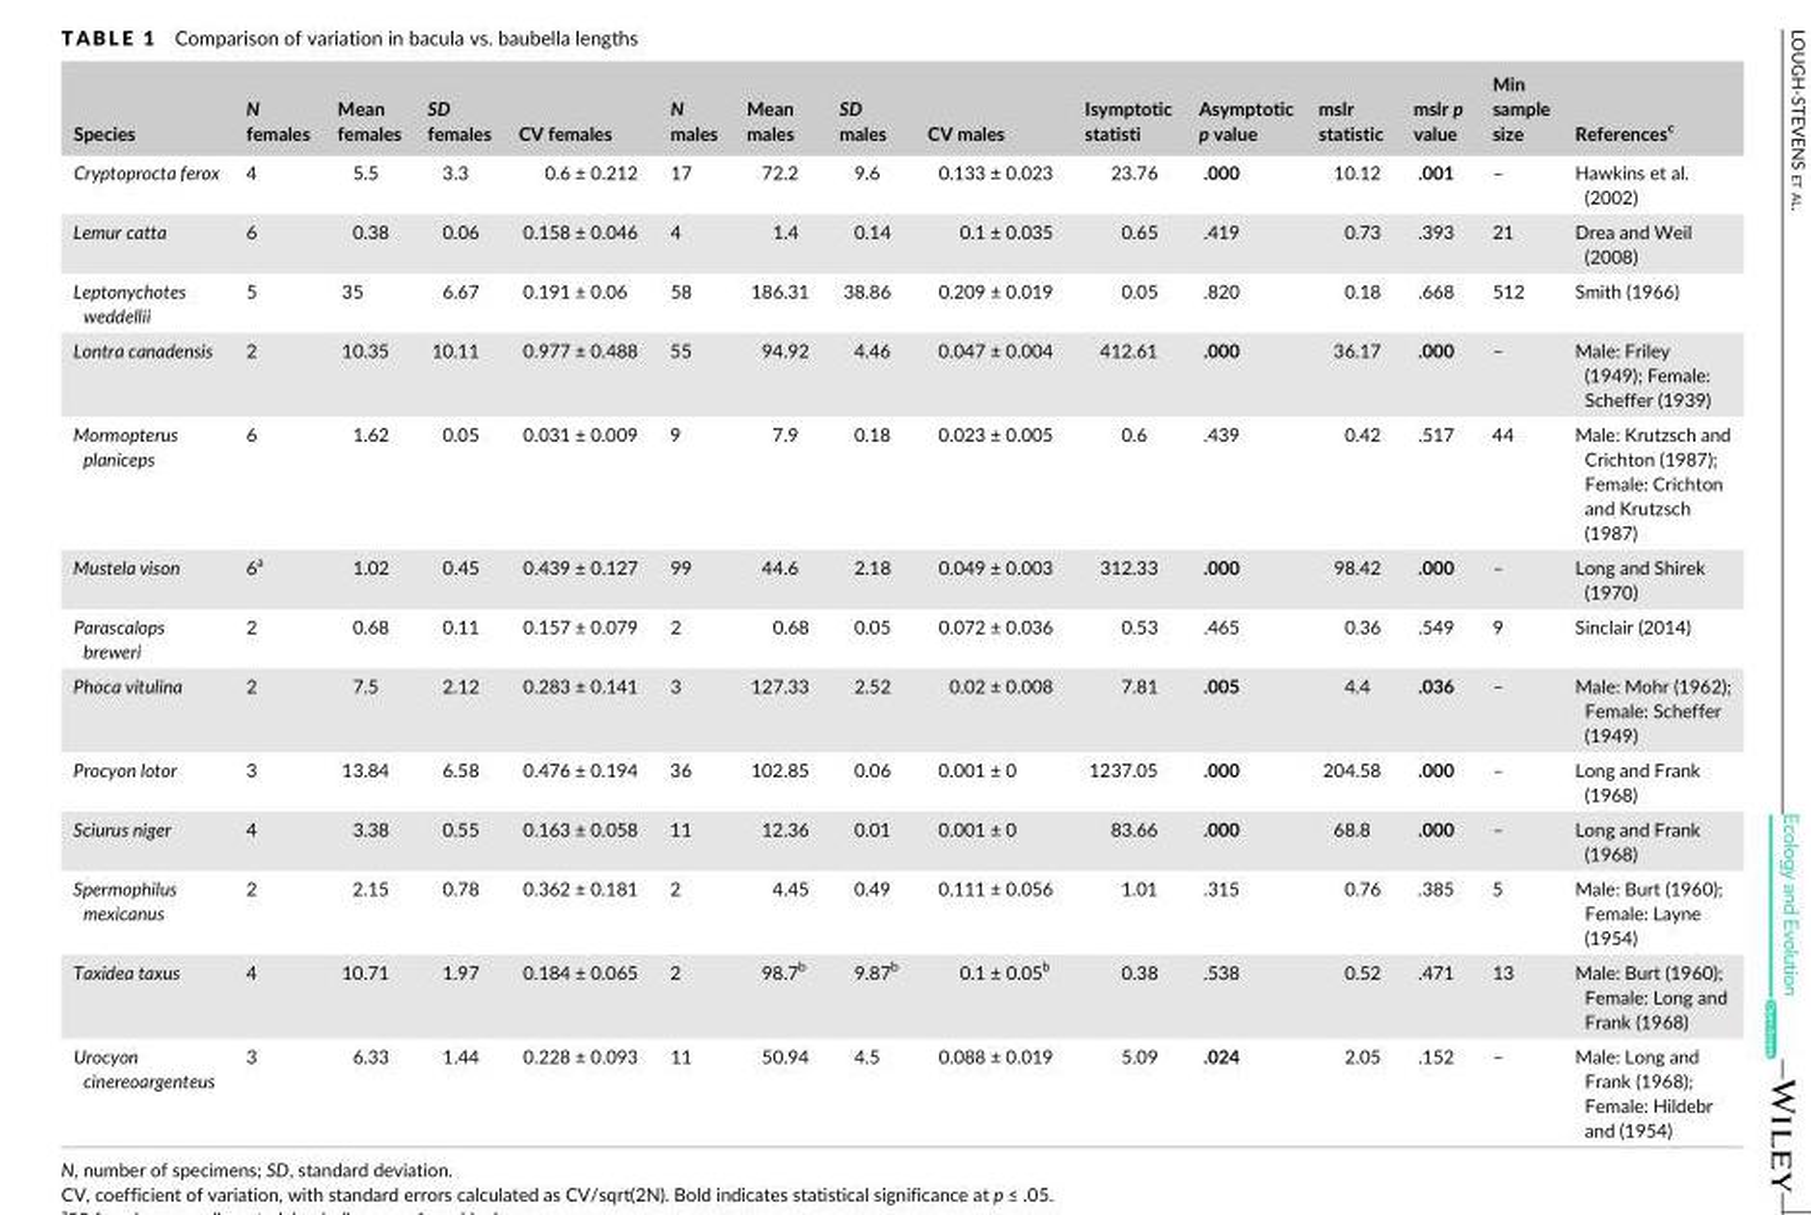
<table><thead><tr><td>Species</td><td>N females</td><td>Mean females</td><td>SD females</td><td>CV females</td><td>N males</td><td>Mean males</td><td>SD males</td><td>CV males</td><td>Isymptotic statisti</td><td>Asymptotic p value</td><td>mslr statistic</td><td>mslr p value</td><td>Min sample size</td><td>References<sup>c</sup></td></tr></thead><tbody><tr><td>Cryptoprocta ferox</td><td>4</td><td>5.5</td><td>3.3</td><td>0.6 ± 0.212</td><td>17</td><td>72.2</td><td>9.6</td><td>0.133 ± 0.023</td><td>23.76</td><td>.000</td><td>10.12</td><td>.001</td><td>–</td><td>Hawkins et al. (2002)</td></tr><tr><td>Lemur catta</td><td>6</td><td>0.38</td><td>0.06</td><td>0.158 ± 0.046</td><td>4</td><td>1.4</td><td>0.14</td><td>0.1 ± 0.035</td><td>0.65</td><td>.419</td><td>0.73</td><td>.393</td><td>21</td><td>Drea and Weil (2008)</td></tr><tr><td>Leptonychotes weddellii</td><td>5</td><td>35</td><td>6.67</td><td>0.191 ± 0.06</td><td>58</td><td>186.31</td><td>38.86</td><td>0.209 ± 0.019</td><td>0.05</td><td>.820</td><td>0.18</td><td>.668</td><td>512</td><td>Smith (1966)</td></tr><tr><td>Lontra canadensis</td><td>2</td><td>10.35</td><td>10.11</td><td>0.977 ± 0.488</td><td>55</td><td>94.92</td><td>4.46</td><td>0.047 ± 0.004</td><td>412.61</td><td>.000</td><td>36.17</td><td>.000</td><td>–</td><td>Male: Friley (1949); Female: Scheffer (1939)</td></tr><tr><td>Mormopterus planiceps</td><td>6</td><td>1.62</td><td>0.05</td><td>0.031 ± 0.009</td><td>9</td><td>7.9</td><td>0.18</td><td>0.023 ± 0.005</td><td>0.6</td><td>.439</td><td>0.42</td><td>.517</td><td>44</td><td>Male: Krutzsch and Crichton (1987); Female: Crichton and Krutzsch (1987)</td></tr><tr><td>Mustela vison</td><td>6<sup>a</sup></td><td>1.02</td><td>0.45</td><td>0.439 ± 0.127</td><td>99</td><td>44.6</td><td>2.18</td><td>0.049 ± 0.003</td><td>312.33</td><td>.000</td><td>98.42</td><td>.000</td><td>–</td><td>Long and Shirek (1970)</td></tr><tr><td>Parascalops breweri</td><td>2</td><td>0.68</td><td>0.11</td><td>0.157 ± 0.079</td><td>2</td><td>0.68</td><td>0.05</td><td>0.072 ± 0.036</td><td>0.53</td><td>.465</td><td>0.36</td><td>.549</td><td>9</td><td>Sinclair (2014)</td></tr><tr><td>Phoca vitulina</td><td>2</td><td>7.5</td><td>2.12</td><td>0.283 ± 0.141</td><td>3</td><td>127.33</td><td>2.52</td><td>0.02 ± 0.008</td><td>7.81</td><td>.005</td><td>4.4</td><td>.036</td><td>–</td><td>Male: Mohr (1962); Female: Scheffer (1949)</td></tr><tr><td>Procyon lotor</td><td>3</td><td>13.84</td><td>6.58</td><td>0.476 ± 0.194</td><td>36</td><td>102.85</td><td>0.06</td><td>0.001 ± 0</td><td>1237.05</td><td>.000</td><td>204.58</td><td>.000</td><td>–</td><td>Long and Frank (1968)</td></tr><tr><td>Sciurus niger</td><td>4</td><td>3.38</td><td>0.55</td><td>0.163 ± 0.058</td><td>11</td><td>12.36</td><td>0.01</td><td>0.001 ± 0</td><td>83.66</td><td>.000</td><td>68.8</td><td>.000</td><td>–</td><td>Long and Frank (1968)</td></tr><tr><td>Spermophilus mexicanus</td><td>2</td><td>2.15</td><td>0.78</td><td>0.362 ± 0.181</td><td>2</td><td>4.45</td><td>0.49</td><td>0.111 ± 0.056</td><td>1.01</td><td>.315</td><td>0.76</td><td>.385</td><td>5</td><td>Male: Burt (1960); Female: Layne (1954)</td></tr><tr><td>Taxidea taxus</td><td>4</td><td>10.71</td><td>1.97</td><td>0.184 ± 0.065</td><td>2</td><td>98.7<sup>b</sup></td><td>9.87<sup>b</sup></td><td>0.1 ± 0.05<sup>b</sup></td><td>0.38</td><td>.538</td><td>0.52</td><td>.471</td><td>13</td><td>Male: Burt (1960); Female: Long and Frank (1968)</td></tr><tr><td>Urocyon cinereoargenteus</td><td>3</td><td>6.33</td><td>1.44</td><td>0.228 ± 0.093</td><td>11</td><td>50.94</td><td>4.5</td><td>0.088 ± 0.019</td><td>5.09</td><td>.024</td><td>2.05</td><td>.152</td><td>–</td><td>Male: Long and Frank (1968); Female: Hildebr and (1954)</td></tr></tbody></table>